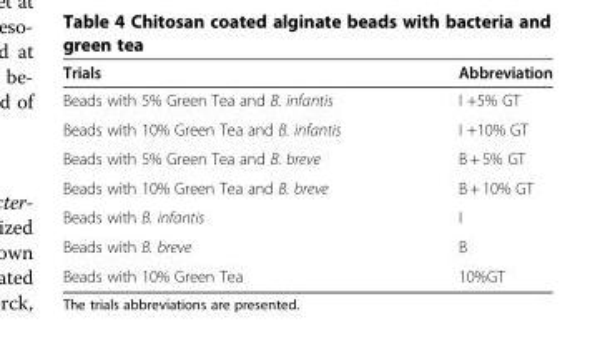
<table><thead><tr><td>Trials</td><td>Abbreviation</td></tr></thead><tbody><tr><td>Beads with 5% Green Tea and B. infantis</td><td>I +5% GT</td></tr><tr><td>Beads with 10% Green Tea and B. infantis</td><td>I +10% GT</td></tr><tr><td>Beads with 5% Green Tea and B. breve</td><td>B + 5% GT</td></tr><tr><td>Beads with 10% Green Tea and B. breve</td><td>B + 10% GT</td></tr><tr><td>Beads with B. infantis</td><td>I</td></tr><tr><td>Beads with B. breve</td><td>B</td></tr><tr><td>Beads with 10% Green Tea</td><td>10%GT</td></tr></tbody></table>